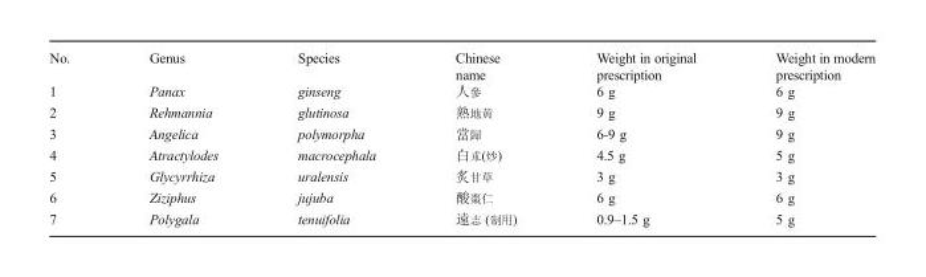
<table><thead><tr><td>No.</td><td>Genus</td><td>Species</td><td>Chinese name</td><td>Weight in original prescription</td><td>Weight in modern prescription</td></tr></thead><tbody><tr><td>1</td><td>Panax</td><td>ginseng</td><td>人參</td><td>6 g</td><td>6 g</td></tr><tr><td>2</td><td>Rehmannia</td><td>glutinosa</td><td>熟地黄</td><td>9 g</td><td>9 g</td></tr><tr><td>3</td><td>Angelica</td><td>polymorpha</td><td>當歸</td><td>6-9 g</td><td>9 g</td></tr><tr><td>4</td><td>Atractylodes</td><td>macrocephala</td><td>白朮(炒)</td><td>4.5 g</td><td>5 g</td></tr><tr><td>5</td><td>Glycyrrhiza</td><td>uralensis</td><td>炙甘草</td><td>3 g</td><td>3 g</td></tr><tr><td>6</td><td>Ziziphus</td><td>jujuba</td><td>酸棗仁</td><td>6 g</td><td>6 g</td></tr><tr><td>7</td><td>Polygala</td><td>tenuifolia</td><td>遠志 (制用)</td><td>0.9–1.5 g</td><td>5 g</td></tr></tbody></table>